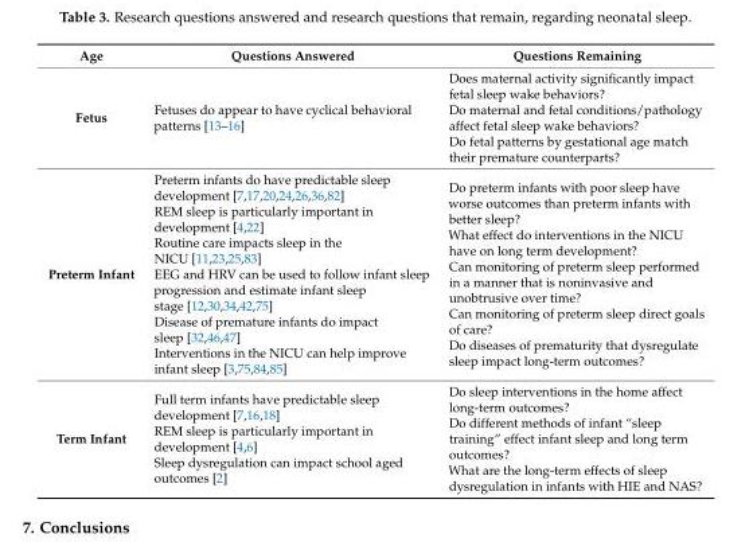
<table><thead><tr><td>Age</td><td>Questions Answered</td><td>Questions Remaining</td></tr></thead><tbody><tr><td>Fetus</td><td>Fetuses do appear to have cyclical behavioral patterns [13–16]</td><td>Does maternal activity significantly impact fetal sleep wake behaviors? Do maternal and fetal conditions/pathology affect fetal sleep wake behaviors? Do fetal patterns by gestational age match their premature counterparts?</td></tr><tr><td>Preterm Infant</td><td>Preterm infants do have predictable sleep development [7,17,20,24,26,36,82] REM sleep is particularly important in development [4,22] Routine care impacts sleep in the NICU [11,23,25,83] EEG and HRV can be used to follow infant sleep progression and estimate infant sleep stage [12,30,34,42,75] Disease of premature infants do impact sleep [32,46,47] Interventions in the NICU can help improve infant sleep [3,75,84,85]</td><td>Do preterm infants with poor sleep have worse outcomes than preterm infants with better sleep? What effect do interventions in the NICU have on long term development? Can monitoring of preterm sleep performed in a manner that is noninvasive and unobtrusive over time? Can monitoring of preterm sleep direct goals of care? Do diseases of prematurity that dysregulate sleep impact long-term outcomes?</td></tr><tr><td>Term Infant</td><td>Full term infants have predictable sleep development [7,16,18] REM sleep is particularly important in development [4,6] Sleep dysregulation can impact school aged outcomes [2]</td><td>Do sleep interventions in the home affect long-term outcomes? Do different methods of infant “sleep training” effect infant sleep and long term outcomes? What are the long-term effects of sleep dysregulation in infants with HIE and NAS?</td></tr></tbody></table>